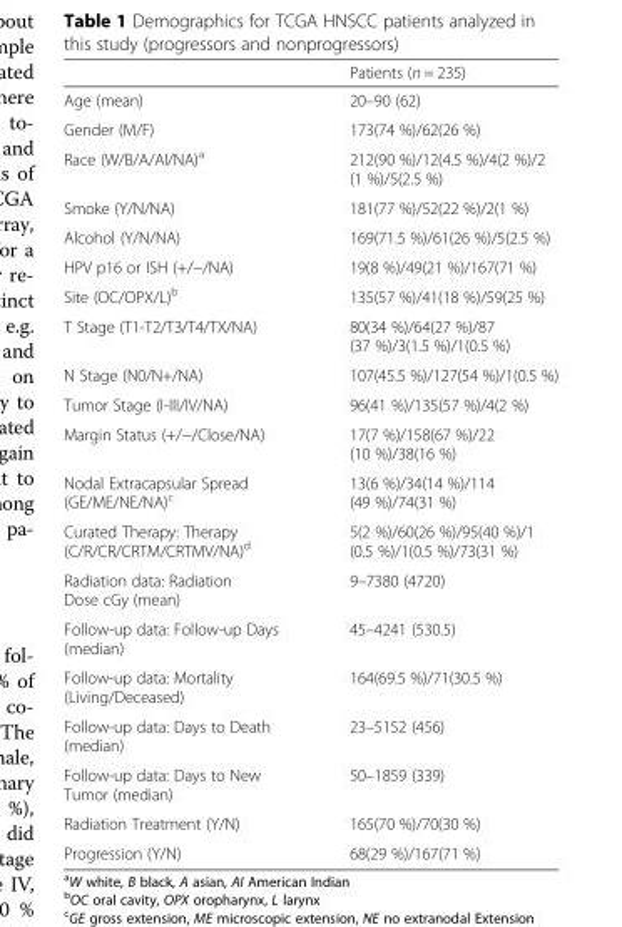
<table><thead><tr><td></td><td>Patients (n = 235)</td></tr></thead><tbody><tr><td>Age (mean)</td><td>20–90 (62)</td></tr><tr><td>Gender (M/F)</td><td>173(74 %)/62(26 %)</td></tr><tr><td>Race (W/B/A/AI/NA)<sup>a</sup></td><td>212(90 %)/12(4.5 %)/4(2 %)/2 (1 %)/5(2.5 %)</td></tr><tr><td>Smoke (Y/N/NA)</td><td>181(77 %)/52(22 %)/2(1 %)</td></tr><tr><td>Alcohol (Y/N/NA)</td><td>169(71.5 %)/61(26 %)/5(2.5 %)</td></tr><tr><td>HPV p16 or ISH (+/−/NA)</td><td>19(8 %)/49(21 %)/167(71 %)</td></tr><tr><td>Site (OC/OPX/L)<sup>b</sup></td><td>135(57 %)/41(18 %)/59(25 %)</td></tr><tr><td>T Stage (T1-T2/T3/T4/TX/NA)</td><td>80(34 %)/64(27 %)/87 (37 %)/3(1.5 %)/1(0.5 %)</td></tr><tr><td>N Stage (N0/N+/NA)</td><td>107(45.5 %)/127(54 %)/1(0.5 %)</td></tr><tr><td>Tumor Stage (I-III/IV/NA)</td><td>96(41 %)/135(57 %)/4(2 %)</td></tr><tr><td>Margin Status (+/−/Close/NA)</td><td>17(7 %)/158(67 %)/22 (10 %)/38(16 %)</td></tr><tr><td>Nodal Extracapsular Spread (GE/ME/NE/NA)<sup>c</sup></td><td>13(6 %)/34(14 %)/114 (49 %)/74(31 %)</td></tr><tr><td>Curated Therapy: Therapy (C/R/CR/CRTM/CRTMV/NA)<sup>d</sup></td><td>5(2 %)/60(26 %)/95(40 %)/1 (0.5 %)/1(0.5 %)/73(31 %)</td></tr><tr><td>Radiation data: Radiation Dose cGy (mean)</td><td>9–7380 (4720)</td></tr><tr><td>Follow-up data: Follow-up Days (median)</td><td>45–4241 (530.5)</td></tr><tr><td>Follow-up data: Mortality (Living/Deceased)</td><td>164(69.5 %)/71(30.5 %)</td></tr><tr><td>Follow-up data: Days to Death (median)</td><td>23–5152 (456)</td></tr><tr><td>Follow-up data: Days to New Tumor (median)</td><td>50–1859 (339)</td></tr><tr><td>Radiation Treatment (Y/N)</td><td>165(70 %)/70(30 %)</td></tr><tr><td>Progression (Y/N)</td><td>68(29 %)/167(71 %)</td></tr></tbody></table>